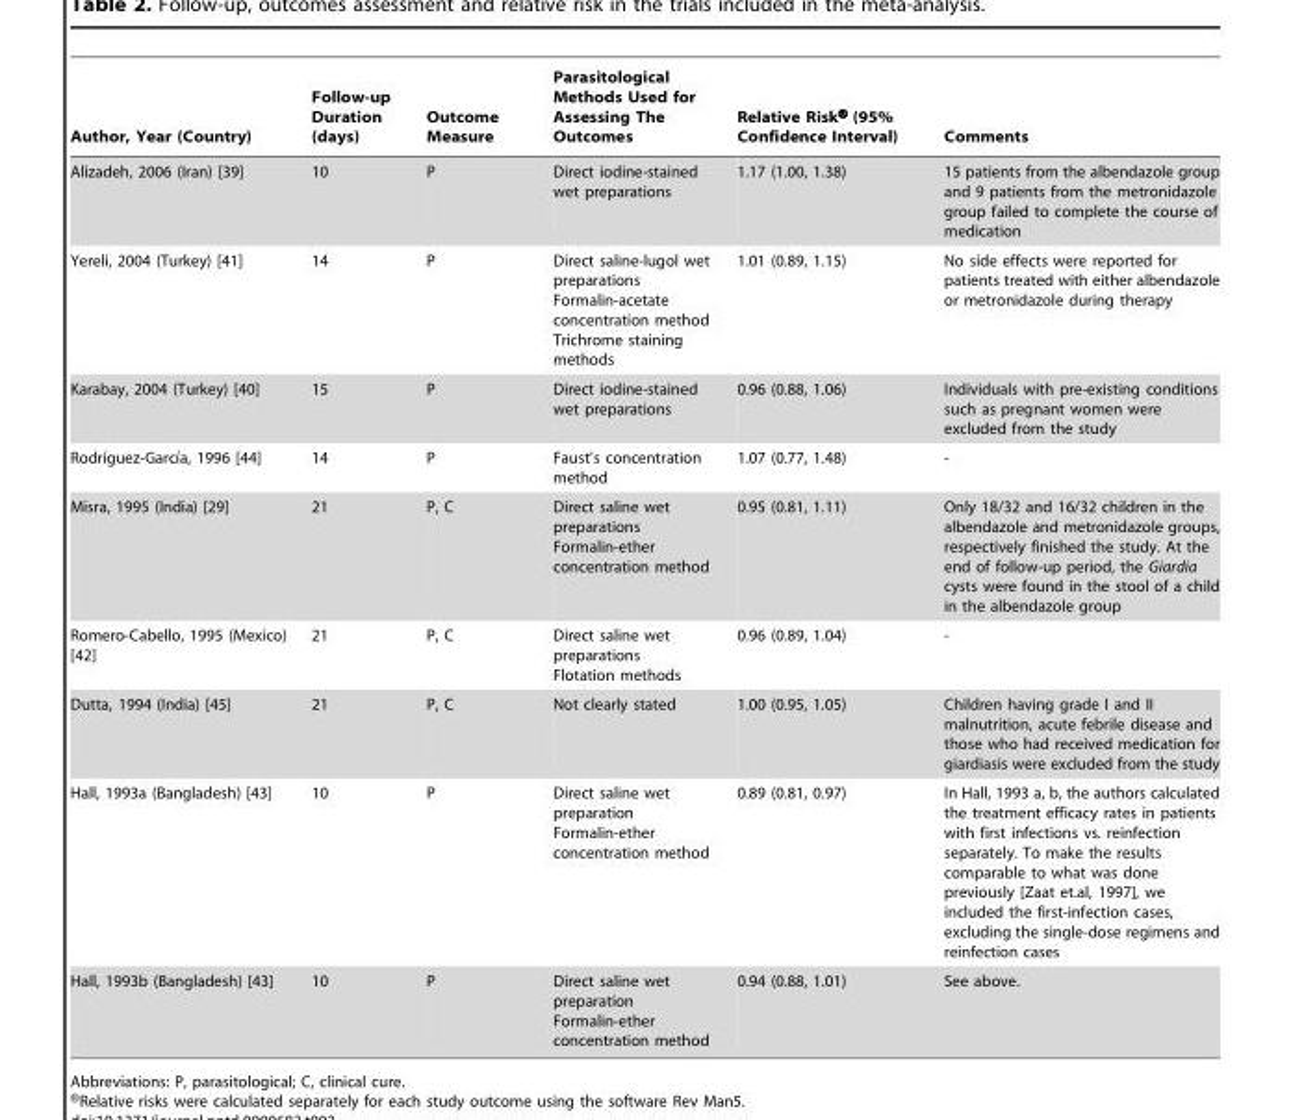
<table><thead><tr><td>Author, Year (Country)</td><td>Follow-up Duration (days)</td><td>Outcome Measure</td><td>Parasitological Methods Used for Assessing The Outcomes</td><td>Relative Risk® (95% Confidence Interval)</td><td>Comments</td></tr></thead><tbody><tr><td>Alizadeh, 2006 (Iran) [39]</td><td>10</td><td>P</td><td>Direct iodine-stained wet preparations</td><td>1.17 (1.00, 1.38)</td><td>15 patients from the albendazole group and 9 patients from the metronidazole group failed to complete the course of medication</td></tr><tr><td>Yereli, 2004 (Turkey) [41]</td><td>14</td><td>P</td><td>Direct saline-lugol wet preparations Formalin-acetate concentration method Trichrome staining methods</td><td>1.01 (0.89, 1.15)</td><td>No side effects were reported for patients treated with either albendazole or metronidazole during therapy</td></tr><tr><td>Karabay, 2004 (Turkey) [40]</td><td>15</td><td>P</td><td>Direct iodine-stained wet preparations</td><td>0.96 (0.88, 1.06)</td><td>Individuals with pre-existing conditions such as pregnant women were excluded from the study</td></tr><tr><td>Rodrı´guez-Garcı´a, 1996 [44]</td><td>14</td><td>P</td><td>Faust’s concentration method</td><td>1.07 (0.77, 1.48)</td><td>-</td></tr><tr><td>Misra, 1995 (India) [29]</td><td>21</td><td>P, C</td><td>Direct saline wet preparations Formalin-ether concentration method</td><td>0.95 (0.81, 1.11)</td><td>Only 18/32 and 16/32 children in the albendazole and metronidazole groups, respectively finished the study. At the end of follow-up period, the Giardia cysts were found in the stool of a child in the albendazole group</td></tr><tr><td>Romero-Cabello, 1995 (Mexico) [42]</td><td>21</td><td>P, C</td><td>Direct saline wet preparations Flotation methods</td><td>0.96 (0.89, 1.04)</td><td>-</td></tr><tr><td>Dutta, 1994 (India) [45]</td><td>21</td><td>P, C</td><td>Not clearly stated</td><td>1.00 (0.95, 1.05)</td><td>Children having grade I and II malnutrition, acute febrile disease and those who had received medication for giardiasis were excluded from the study</td></tr><tr><td>Hall, 1993a (Bangladesh) [43]</td><td>10</td><td>P</td><td>Direct saline wet preparation Formalin-ether concentration method</td><td>0.89 (0.81, 0.97)</td><td>In Hall, 1993 a, b, the authors calculated the treatment efficacy rates in patients with first infections vs. reinfection separately. To make the results comparable to what was done previously [Zaat et.al, 1997], we included the first-infection cases, excluding the single-dose regimens and reinfection cases</td></tr><tr><td>Hall, 1993b (Bangladesh) [43]</td><td>10</td><td>P</td><td>Direct saline wet preparation Formalin-ether concentration method</td><td>0.94 (0.88, 1.01)</td><td>See above.</td></tr></tbody></table>